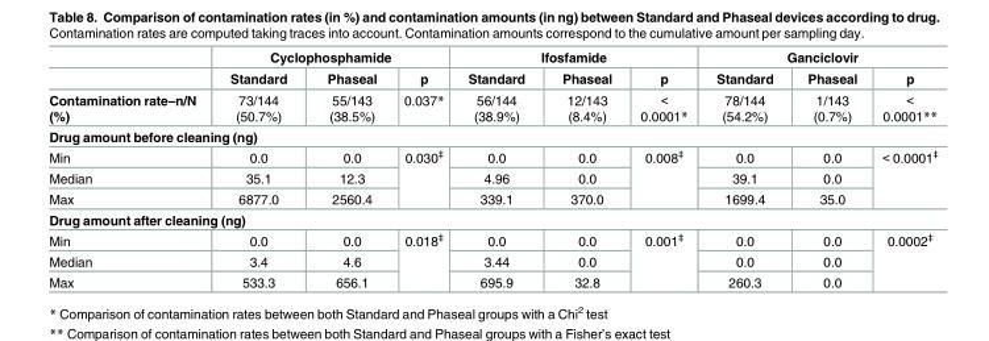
<table><thead><tr><td rowspan="2"></td><td colspan="3">Cyclophosphamide</td><td colspan="3">Ifosfamide</td><td colspan="3">Ganciclovir</td></tr><tr><td>Standard</td><td>Phaseal</td><td>p</td><td>Standard</td><td>Phaseal</td><td>p</td><td>Standard</td><td>Phaseal</td><td>p</td></tr></thead><tbody><tr><td>Contamination rate–n/N (%)</td><td>73/144 (50.7%)</td><td>55/143 (38.5%)</td><td>0.037*</td><td>56/144 (38.9%)</td><td>12/143 (8.4%)</td><td>&lt; 0.0001*</td><td>78/144 (54.2%)</td><td>1/143 (0.7%)</td><td>&lt; 0.0001**</td></tr><tr><td colspan="10">Drug amount before cleaning (ng)</td></tr><tr><td>Min</td><td>0.0</td><td>0.0</td><td rowspan="3">0.030<sup>‡</sup></td><td>0.0</td><td>0.0</td><td rowspan="3">0.008<sup>‡</sup></td><td>0.0</td><td>0.0</td><td rowspan="3">&lt; 0.0001<sup>‡</sup></td></tr><tr><td>Median</td><td>35.1</td><td>12.3</td><td>4.96</td><td>0.0</td><td>39.1</td><td>0.0</td></tr><tr><td>Max</td><td>6877.0</td><td>2560.4</td><td>339.1</td><td>370.0</td><td>1699.4</td><td>35.0</td></tr><tr><td colspan="10">Drug amount after cleaning (ng)</td></tr><tr><td>Min</td><td>0.0</td><td>0.0</td><td rowspan="3">0.018<sup>‡</sup></td><td>0.0</td><td>0.0</td><td rowspan="3">0.001<sup>‡</sup></td><td>0.0</td><td>0.0</td><td rowspan="3">0.0002<sup>‡</sup></td></tr><tr><td>Median</td><td>3.4</td><td>4.6</td><td>3.44</td><td>0.0</td><td>0.0</td><td>0.0</td></tr><tr><td>Max</td><td>533.3</td><td>656.1</td><td>695.9</td><td>32.8</td><td>260.3</td><td>0.0</td></tr></tbody></table>